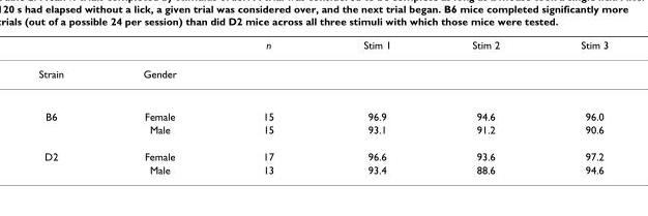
<table><thead><tr><td></td><td></td><td>n</td><td>Stim 1</td><td>Stim 2</td><td>Stim 3</td></tr></thead><tbody><tr><td>Strain</td><td>Gender</td><td></td><td></td><td></td><td></td></tr><tr><td rowspan="2">B6</td><td>Female</td><td>15</td><td>96.9</td><td>94.6</td><td>96.0</td></tr><tr><td>Male</td><td>15</td><td>93.1</td><td>91.2</td><td>90.6</td></tr><tr><td rowspan="2">D2</td><td>Female</td><td>17</td><td>96.6</td><td>93.6</td><td>97.2</td></tr><tr><td>Male</td><td>13</td><td>93.4</td><td>88.6</td><td>94.6</td></tr></tbody></table>